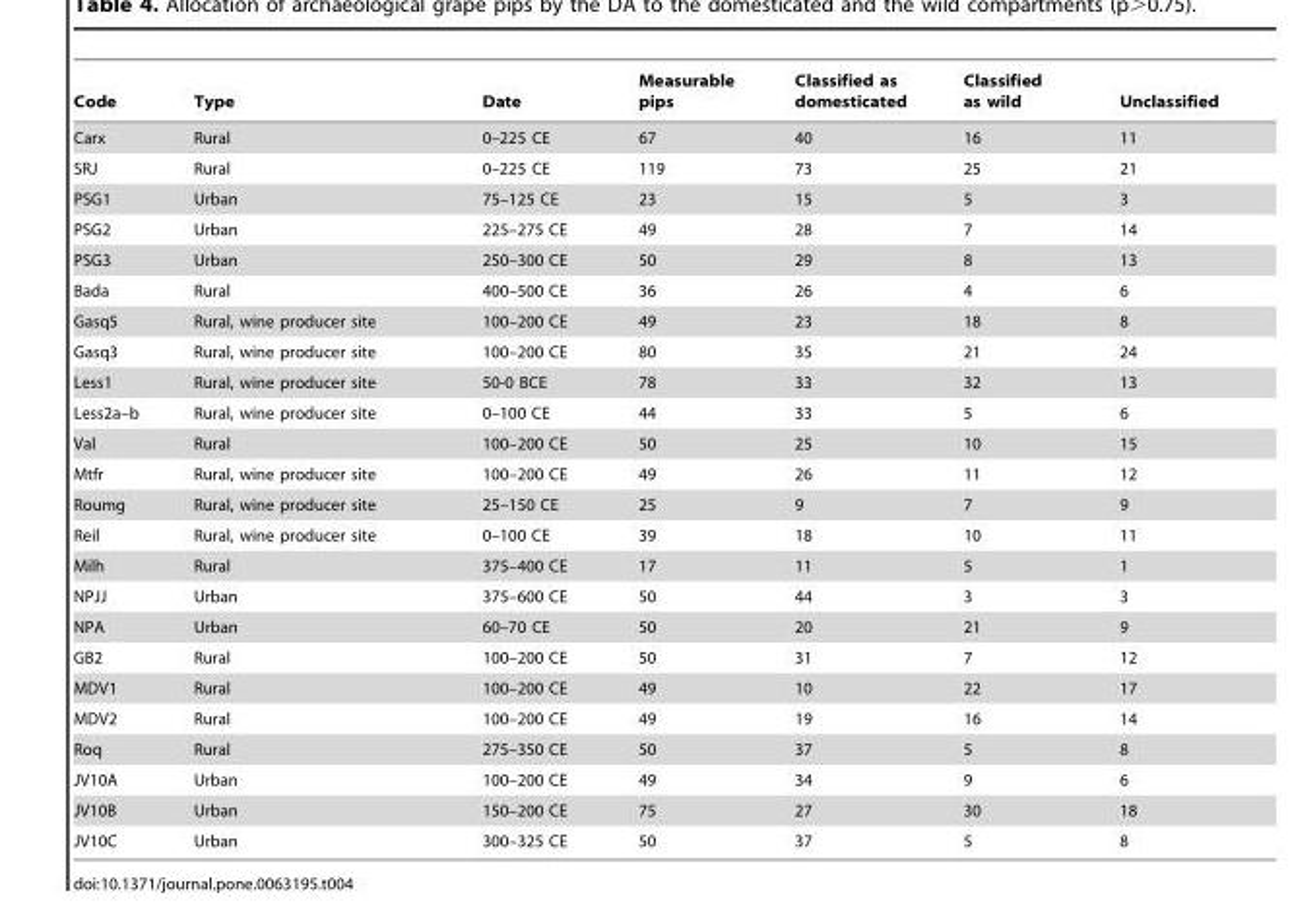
<table><thead><tr><td>Code</td><td>Type</td><td>Date</td><td>Measurable pips</td><td>Classified as domesticated</td><td>Classified as wild</td><td>Unclassified</td></tr></thead><tbody><tr><td>Carx</td><td>Rural</td><td>0–225 CE</td><td>67</td><td>40</td><td>16</td><td>11</td></tr><tr><td>SRJ</td><td>Rural</td><td>0–225 CE</td><td>119</td><td>73</td><td>25</td><td>21</td></tr><tr><td>PSG1</td><td>Urban</td><td>75–125 CE</td><td>23</td><td>15</td><td>5</td><td>3</td></tr><tr><td>PSG2</td><td>Urban</td><td>225–275 CE</td><td>49</td><td>28</td><td>7</td><td>14</td></tr><tr><td>PSG3</td><td>Urban</td><td>250–300 CE</td><td>50</td><td>29</td><td>8</td><td>13</td></tr><tr><td>Bada</td><td>Rural</td><td>400–500 CE</td><td>36</td><td>26</td><td>4</td><td>6</td></tr><tr><td>Gasq5</td><td>Rural, wine producer site</td><td>100–200 CE</td><td>49</td><td>23</td><td>18</td><td>8</td></tr><tr><td>Gasq3</td><td>Rural, wine producer site</td><td>100–200 CE</td><td>80</td><td>35</td><td>21</td><td>24</td></tr><tr><td>Less1</td><td>Rural, wine producer site</td><td>50-0 BCE</td><td>78</td><td>33</td><td>32</td><td>13</td></tr><tr><td>Less2a–b</td><td>Rural, wine producer site</td><td>0–100 CE</td><td>44</td><td>33</td><td>5</td><td>6</td></tr><tr><td>Val</td><td>Rural</td><td>100–200 CE</td><td>50</td><td>25</td><td>10</td><td>15</td></tr><tr><td>Mtfr</td><td>Rural, wine producer site</td><td>100–200 CE</td><td>49</td><td>26</td><td>11</td><td>12</td></tr><tr><td>Roumg</td><td>Rural, wine producer site</td><td>25–150 CE</td><td>25</td><td>9</td><td>7</td><td>9</td></tr><tr><td>Reil</td><td>Rural, wine producer site</td><td>0–100 CE</td><td>39</td><td>18</td><td>10</td><td>11</td></tr><tr><td>Milh</td><td>Rural</td><td>375–400 CE</td><td>17</td><td>11</td><td>5</td><td>1</td></tr><tr><td>NPJJ</td><td>Urban</td><td>375–600 CE</td><td>50</td><td>44</td><td>3</td><td>3</td></tr><tr><td>NPA</td><td>Urban</td><td>60–70 CE</td><td>50</td><td>20</td><td>21</td><td>9</td></tr><tr><td>GB2</td><td>Rural</td><td>100–200 CE</td><td>50</td><td>31</td><td>7</td><td>12</td></tr><tr><td>MDV1</td><td>Rural</td><td>100–200 CE</td><td>49</td><td>10</td><td>22</td><td>17</td></tr><tr><td>MDV2</td><td>Rural</td><td>100–200 CE</td><td>49</td><td>19</td><td>16</td><td>14</td></tr><tr><td>Roq</td><td>Rural</td><td>275–350 CE</td><td>50</td><td>37</td><td>5</td><td>8</td></tr><tr><td>JV10A</td><td>Urban</td><td>100–200 CE</td><td>49</td><td>34</td><td>9</td><td>6</td></tr><tr><td>JV10B</td><td>Urban</td><td>150–200 CE</td><td>75</td><td>27</td><td>30</td><td>18</td></tr><tr><td>JV10C</td><td>Urban</td><td>300–325 CE</td><td>50</td><td>37</td><td>5</td><td>8</td></tr></tbody></table>